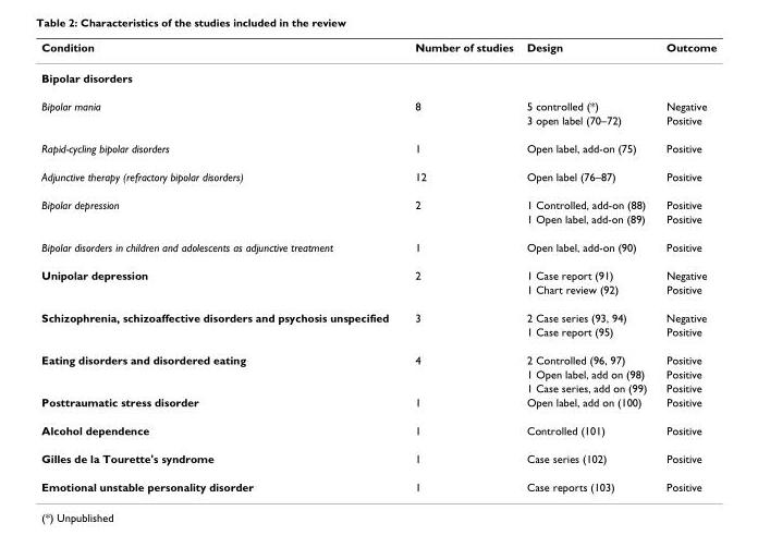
<table><thead><tr><td>Condition</td><td>Number of studies</td><td>Design</td><td>Outcome</td></tr></thead><tbody><tr><td colspan="4">Bipolar disorders</td></tr><tr><td rowspan="2">Bipolar mania</td><td>8</td><td>5 controlled (*)</td><td>Negative</td></tr><tr><td></td><td>3 open label (70–72)</td><td>Positive</td></tr><tr><td>Rapid-cycling bipolar disorders</td><td>1</td><td>Open label, add-on (75)</td><td>Positive</td></tr><tr><td>Adjunctive therapy (refractory bipolar disorders)</td><td>12</td><td>Open label (76–87)</td><td>Positive</td></tr><tr><td rowspan="2">Bipolar depression</td><td>2</td><td>1 Controlled, add-on (88)</td><td>Positive</td></tr><tr><td></td><td>1 Open label, add-on (89)</td><td>Positive</td></tr><tr><td>Bipolar disorders in children and adolescents as adjunctive treatment</td><td>1</td><td>Open label, add-on (90)</td><td>Positive</td></tr><tr><td rowspan="2">Unipolar depression</td><td>2</td><td>1 Case report (91)</td><td>Negative</td></tr><tr><td></td><td>1 Chart review (92)</td><td>Positive</td></tr><tr><td rowspan="2">Schizophrenia, schizoaffective disorders and psychosis unspecified</td><td>3</td><td>2 Case series (93, 94)</td><td>Negative</td></tr><tr><td></td><td>1 Case report (95)</td><td>Positive</td></tr><tr><td rowspan="3">Eating disorders and disordered eating</td><td>4</td><td>2 Controlled (96, 97)</td><td>Positive</td></tr><tr><td></td><td>1 Open label, add on (98)</td><td>Positive</td></tr><tr><td></td><td>1 Case series, add on (99)</td><td>Positive</td></tr><tr><td>Posttraumatic stress disorder</td><td>1</td><td>Open label, add on (100)</td><td>Positive</td></tr><tr><td>Alcohol dependence</td><td>1</td><td>Controlled (101)</td><td>Positive</td></tr><tr><td>Gilles de la Tourette&#x27;s syndrome</td><td>1</td><td>Case series (102)</td><td>Positive</td></tr><tr><td>Emotional unstable personality disorder</td><td>1</td><td>Case reports (103)</td><td>Positive</td></tr></tbody></table>